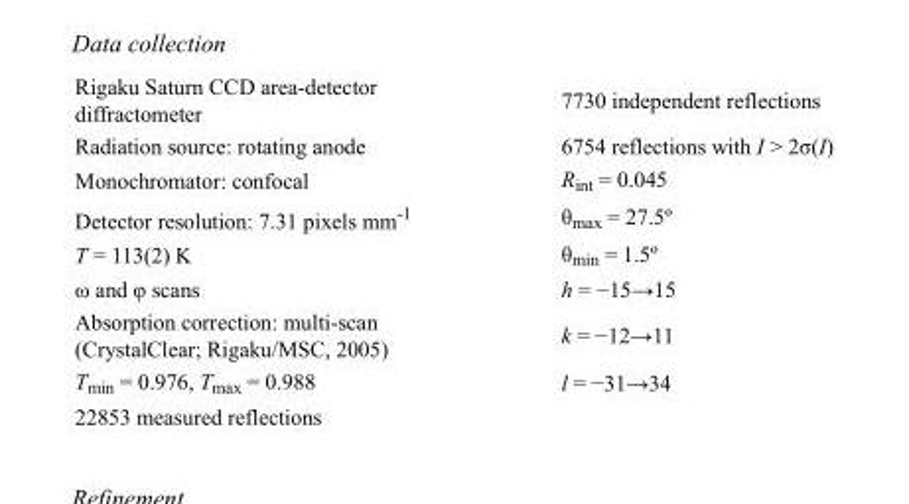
<table><tbody><tr><td>Rigaku Saturn CCD area-detector diffractometer</td><td>7730 independent reflections</td></tr><tr><td>Radiation source: rotating anode</td><td>6754 reflections with I &gt; 2σ(I)</td></tr><tr><td>Monochromator: confocal</td><td>R<sub>int</sub> = 0.045</td></tr><tr><td>Detector resolution: 7.31 pixels mm<sup>-1</sup></td><td>θ<sub>max</sub> = 27.5º</td></tr><tr><td>T = 113(2) K</td><td>θ<sub>min</sub> = 1.5º</td></tr><tr><td>ω and φ scans</td><td>h = −15→15</td></tr><tr><td>Absorption correction: multi-scan (CrystalClear; Rigaku/MSC, 2005)</td><td>k = −12→11</td></tr><tr><td>T<sub>min</sub> = 0.976, T<sub>max</sub> = 0.988</td><td>l = −31→34</td></tr><tr><td>22853 measured reflections</td><td></td></tr></tbody></table>